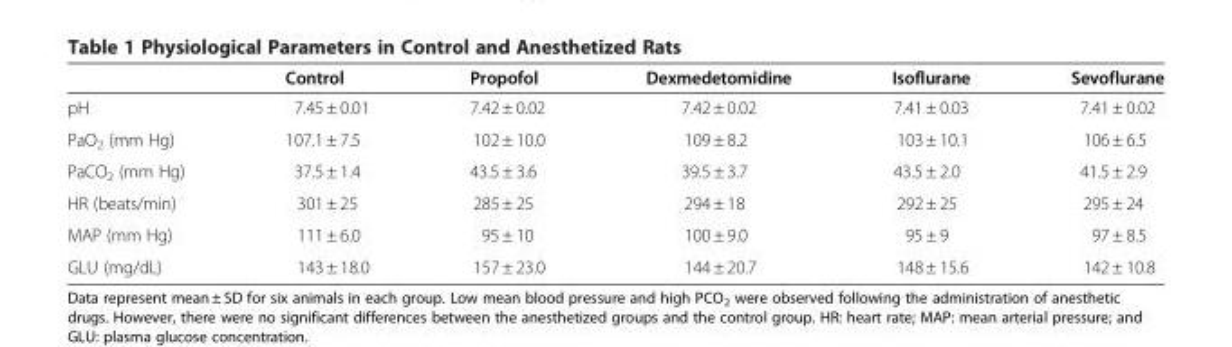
<table><thead><tr><td></td><td>Control</td><td>Propofol</td><td>Dexmedetomidine</td><td>Isoflurane</td><td>Sevoflurane</td></tr></thead><tbody><tr><td>pH</td><td>7.45 ± 0.01</td><td>7.42 ± 0.02</td><td>7.42 ± 0.02</td><td>7.41 ± 0.03</td><td>7.41 ± 0.02</td></tr><tr><td>PaO<sub>2</sub> (mm Hg)</td><td>107.1 ± 7.5</td><td>102 ± 10.0</td><td>109 ± 8.2</td><td>103 ± 10.1</td><td>106 ± 6.5</td></tr><tr><td>PaCO<sub>2</sub> (mm Hg)</td><td>37.5 ± 1.4</td><td>43.5 ± 3.6</td><td>39.5 ± 3.7</td><td>43.5 ± 2.0</td><td>41.5 ± 2.9</td></tr><tr><td>HR (beats/min)</td><td>301 ± 25</td><td>285 ± 25</td><td>294 ± 18</td><td>292 ± 25</td><td>295 ± 24</td></tr><tr><td>MAP (mm Hg)</td><td>111 ± 6.0</td><td>95 ± 10</td><td>100 ± 9.0</td><td>95 ± 9</td><td>97 ± 8.5</td></tr><tr><td>GLU (mg/dL)</td><td>143 ± 18.0</td><td>157 ± 23.0</td><td>144 ± 20.7</td><td>148 ± 15.6</td><td>142 ± 10.8</td></tr></tbody></table>